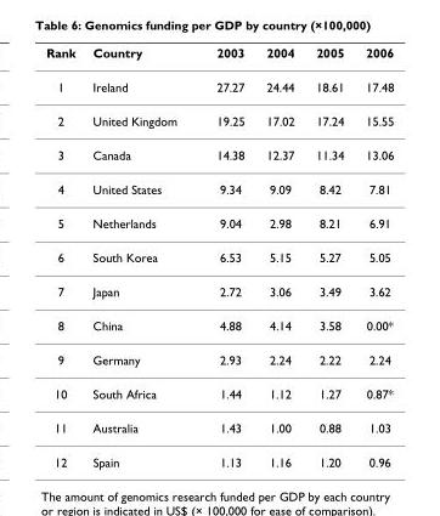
<table><thead><tr><td>Rank</td><td>Country</td><td>2003</td><td>2004</td><td>2005</td><td>2006</td></tr></thead><tbody><tr><td>1</td><td>Ireland</td><td>27.27</td><td>24.44</td><td>18.61</td><td>17.48</td></tr><tr><td>2</td><td>United Kingdom</td><td>19.25</td><td>17.02</td><td>17.24</td><td>15.55</td></tr><tr><td>3</td><td>Canada</td><td>14.38</td><td>12.37</td><td>11.34</td><td>13.06</td></tr><tr><td>4</td><td>United States</td><td>9.34</td><td>9.09</td><td>8.42</td><td>7.81</td></tr><tr><td>5</td><td>Netherlands</td><td>9.04</td><td>2.98</td><td>8.21</td><td>6.91</td></tr><tr><td>6</td><td>South Korea</td><td>6.53</td><td>5.15</td><td>5.27</td><td>5.05</td></tr><tr><td>7</td><td>Japan</td><td>2.72</td><td>3.06</td><td>3.49</td><td>3.62</td></tr><tr><td>8</td><td>China</td><td>4.88</td><td>4.14</td><td>3.58</td><td>0.00*</td></tr><tr><td>9</td><td>Germany</td><td>2.93</td><td>2.24</td><td>2.22</td><td>2.24</td></tr><tr><td>10</td><td>South Africa</td><td>1.44</td><td>1.12</td><td>1.27</td><td>0.87*</td></tr><tr><td>11</td><td>Australia</td><td>1.43</td><td>1.00</td><td>0.88</td><td>1.03</td></tr><tr><td>12</td><td>Spain</td><td>1.13</td><td>1.16</td><td>1.20</td><td>0.96</td></tr></tbody></table>